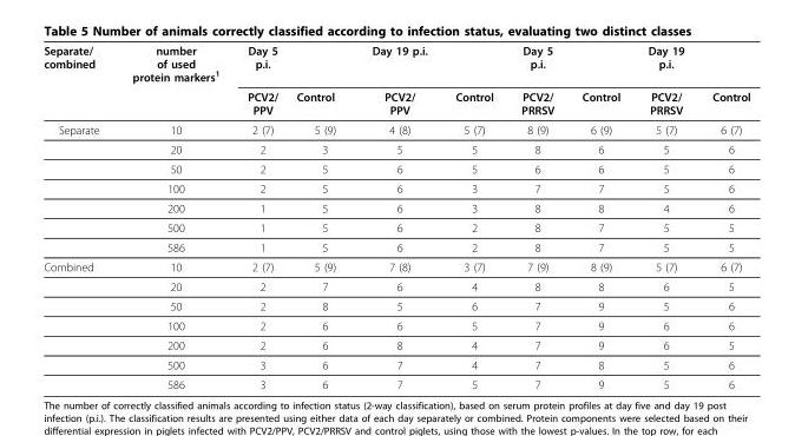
<table><thead><tr><td rowspan="2">Separate/ combined</td><td rowspan="2">number of used protein markers<sup>1</sup></td><td rowspan="2">Day 5 p.i. PCV2/ PPV</td><td rowspan="2">Control</td><td rowspan="2">Day 19 p.i. PCV2/ PPV</td><td rowspan="2">Control</td><td rowspan="2">Day 5 p.i. PCV2/ PRRSV</td><td rowspan="2">Control</td><td rowspan="2">Day 19 p.i. PCV2/ PRRSV</td><td rowspan="2">Control</td></tr><tr></tr></thead><tbody><tr><td rowspan="7">Separate</td><td>10</td><td>2 (7)</td><td>5 (9)</td><td>4 (8)</td><td>5 (7)</td><td>8 (9)</td><td>6 (9)</td><td>5 (7)</td><td>6 (7)</td></tr><tr><td>20</td><td>2</td><td>3</td><td>5</td><td>5</td><td>8</td><td>6</td><td>5</td><td>6</td></tr><tr><td>50</td><td>2</td><td>5</td><td>6</td><td>5</td><td>6</td><td>6</td><td>5</td><td>6</td></tr><tr><td>100</td><td>2</td><td>5</td><td>6</td><td>3</td><td>7</td><td>7</td><td>5</td><td>6</td></tr><tr><td>200</td><td>1</td><td>5</td><td>6</td><td>3</td><td>8</td><td>8</td><td>4</td><td>6</td></tr><tr><td>500</td><td>1</td><td>5</td><td>6</td><td>2</td><td>8</td><td>7</td><td>5</td><td>5</td></tr><tr><td>586</td><td>1</td><td>5</td><td>6</td><td>2</td><td>8</td><td>7</td><td>5</td><td>5</td></tr><tr><td rowspan="7">Combined</td><td>10</td><td>2 (7)</td><td>5 (9)</td><td>7 (8)</td><td>3 (7)</td><td>7 (9)</td><td>8 (9)</td><td>5 (7)</td><td>6 (7)</td></tr><tr><td>20</td><td>2</td><td>7</td><td>6</td><td>4</td><td>8</td><td>8</td><td>6</td><td>5</td></tr><tr><td>50</td><td>2</td><td>8</td><td>5</td><td>6</td><td>7</td><td>9</td><td>5</td><td>6</td></tr><tr><td>100</td><td>2</td><td>6</td><td>6</td><td>5</td><td>7</td><td>9</td><td>6</td><td>6</td></tr><tr><td>200</td><td>2</td><td>6</td><td>8</td><td>4</td><td>7</td><td>9</td><td>6</td><td>5</td></tr><tr><td>500</td><td>3</td><td>6</td><td>7</td><td>4</td><td>7</td><td>8</td><td>5</td><td>6</td></tr><tr><td>586</td><td>3</td><td>6</td><td>7</td><td>5</td><td>7</td><td>9</td><td>5</td><td>6</td></tr></tbody></table>